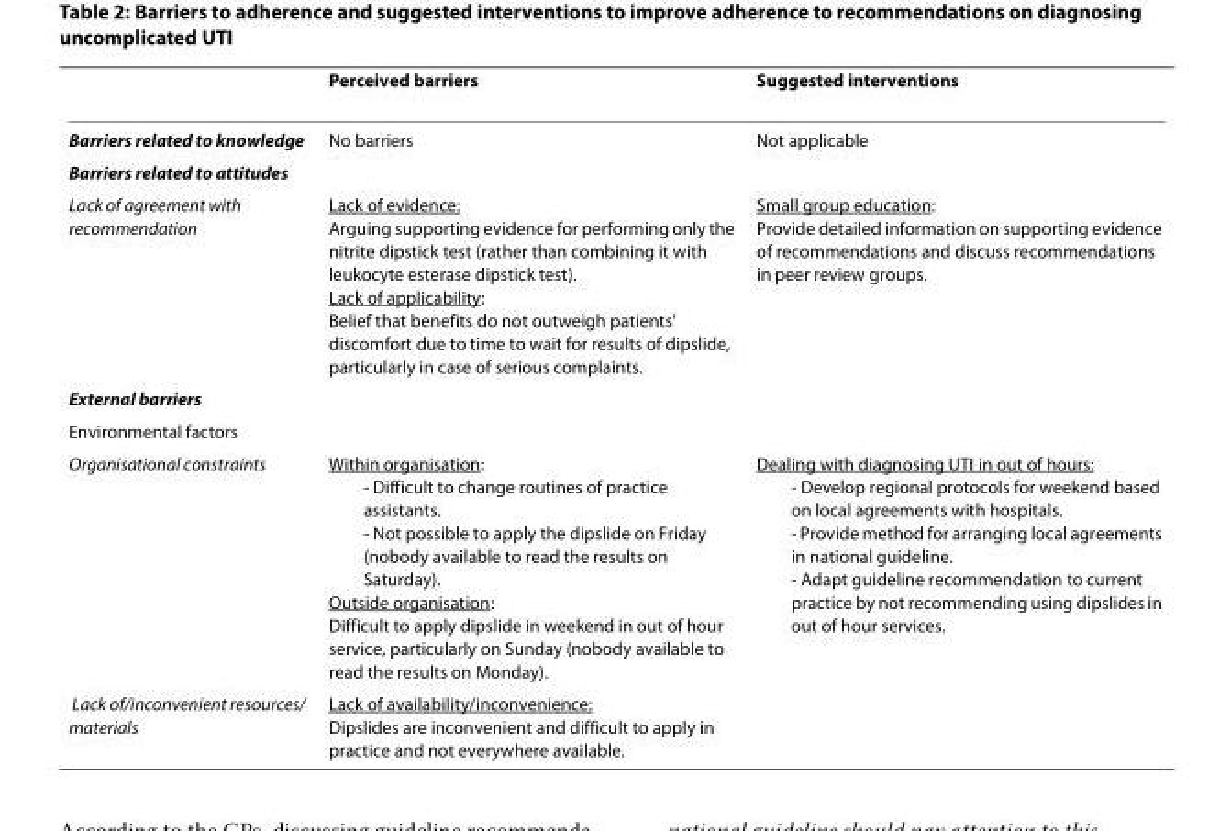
<table><thead><tr><td></td><td>Perceived barriers</td><td>Suggested interventions</td></tr></thead><tbody><tr><td>Barriers related to knowledge</td><td>No barriers</td><td>Not applicable</td></tr><tr><td colspan="3">Barriers related to attitudes</td></tr><tr><td>Lack of agreement with recommendation</td><td>Lack of evidence: Arguing supporting evidence for performing only the nitrite dipstick test (rather than combining it with leukocyte esterase dipstick test). Lack of applicability: Belief that benefits do not outweigh patients&#x27; discomfort due to time to wait for results of dipslide, particularly in case of serious complaints.</td><td>Small group education: Provide detailed information on supporting evidence of recommendations and discuss recommendations in peer review groups.</td></tr><tr><td colspan="3">External barriers</td></tr><tr><td colspan="3">Environmental factors</td></tr><tr><td>Organisational constraints</td><td>Within organisation: - Difficult to change routines of practice assistants. - Not possible to apply the dipslide on Friday (nobody available to read the results on Saturday). Outside organisation: Difficult to apply dipslide in weekend in out of hour service, particularly on Sunday (nobody available to read the results on Monday).</td><td>Dealing with diagnosing UTI in out of hours: - Develop regional protocols for weekend based on local agreements with hospitals. - Provide method for arranging local agreements in national guideline. - Adapt guideline recommendation to current practice by not recommending using dipslides in out of hour services.</td></tr><tr><td>Lack of/inconvenient resources/ materials</td><td>Lack of availability/inconvenience: Dipslides are inconvenient and difficult to apply in practice and not everywhere available.</td><td></td></tr></tbody></table>